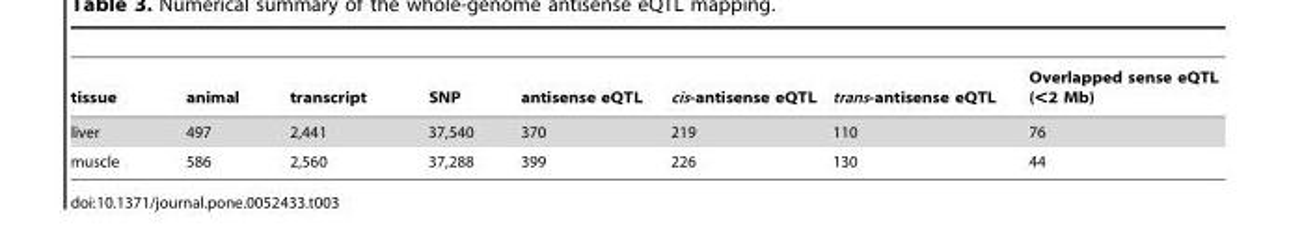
<table><thead><tr><td>tissue</td><td>animal</td><td>transcript</td><td>SNP</td><td>antisense eQTL</td><td>cis-antisense eQTL</td><td>trans-antisense eQTL</td><td>Overlapped sense eQTL (&lt;2 Mb)</td></tr></thead><tbody><tr><td>liver</td><td>497</td><td>2,441</td><td>37,540</td><td>370</td><td>219</td><td>110</td><td>76</td></tr><tr><td>muscle</td><td>586</td><td>2,560</td><td>37,288</td><td>399</td><td>226</td><td>130</td><td>44</td></tr></tbody></table>